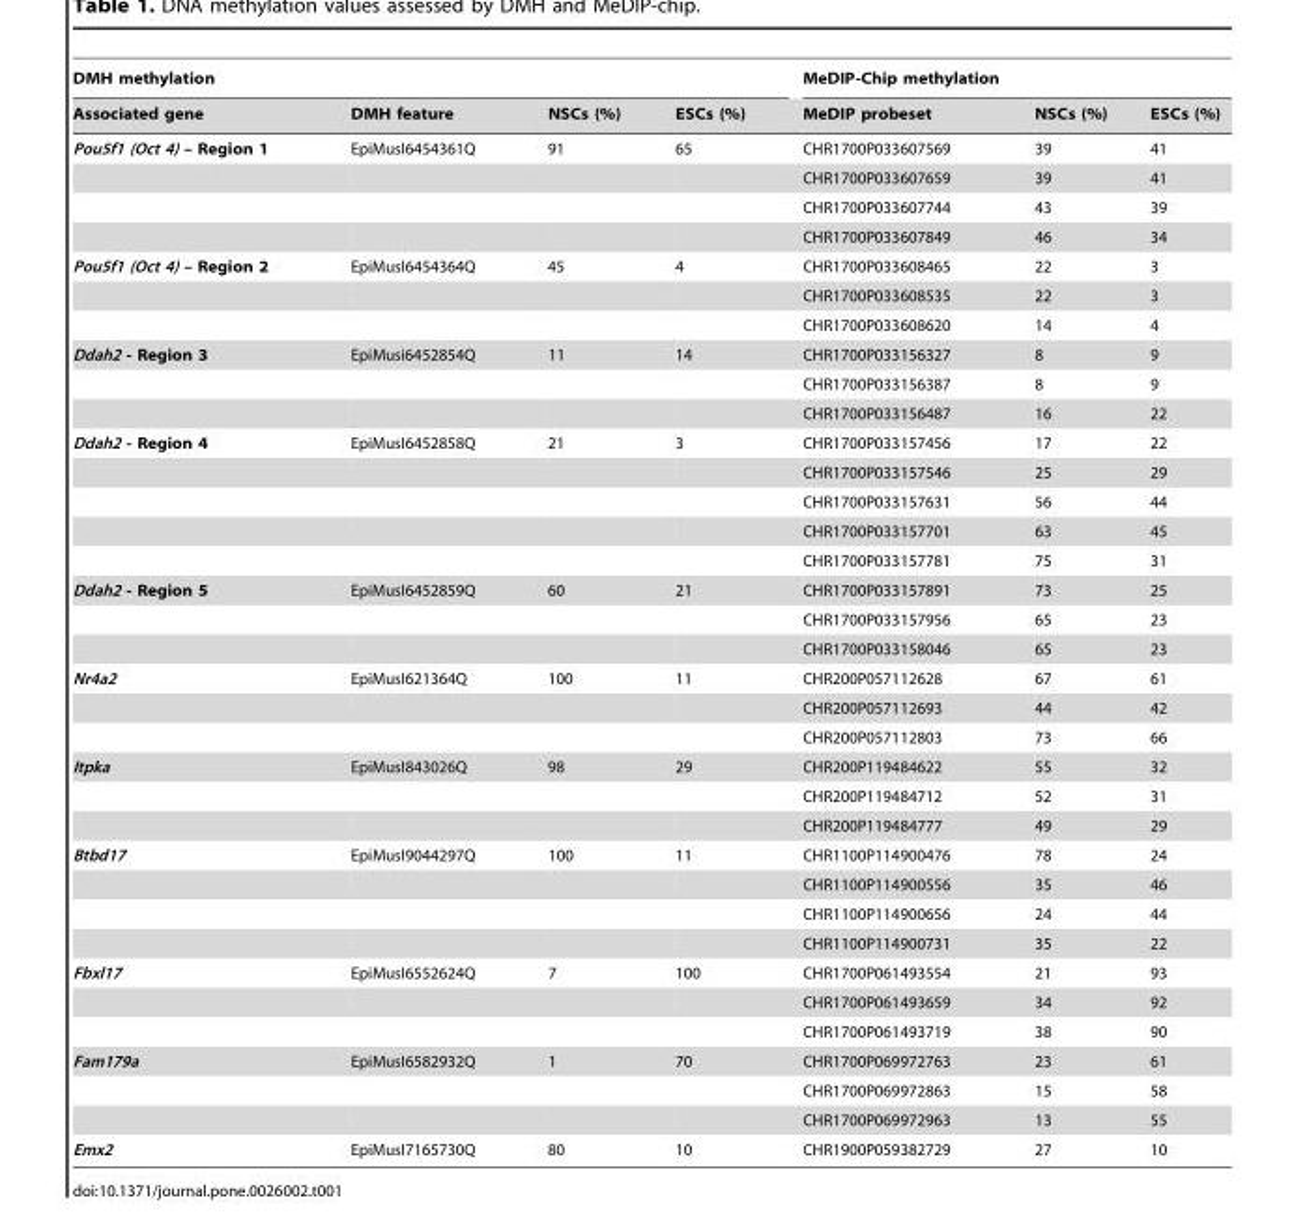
<table><thead><tr><td colspan="4">DMH methylation</td><td colspan="3">MeDIP-Chip methylation</td></tr><tr><td>Associated gene</td><td>DMH feature</td><td>NSCs (%)</td><td>ESCs (%)</td><td>MeDIP probeset</td><td>NSCs (%)</td><td>ESCs (%)</td></tr></thead><tbody><tr><td rowspan="4">Pou5f1 (Oct 4) – Region 1</td><td>EpiMusI6454361Q</td><td>91</td><td>65</td><td>CHR1700P033607569</td><td>39</td><td>41</td></tr><tr><td></td><td></td><td></td><td>CHR1700P033607659</td><td>39</td><td>41</td></tr><tr><td></td><td></td><td></td><td>CHR1700P033607744</td><td>43</td><td>39</td></tr><tr><td></td><td></td><td></td><td>CHR1700P033607849</td><td>46</td><td>34</td></tr><tr><td rowspan="3">Pou5f1 (Oct 4) – Region 2</td><td>EpiMusI6454364Q</td><td>45</td><td>4</td><td>CHR1700P033608465</td><td>22</td><td>3</td></tr><tr><td></td><td></td><td></td><td>CHR1700P033608535</td><td>22</td><td>3</td></tr><tr><td></td><td></td><td></td><td>CHR1700P033608620</td><td>14</td><td>4</td></tr><tr><td rowspan="3">Ddah2 - Region 3</td><td>EpiMusi6452854Q</td><td>11</td><td>14</td><td>CHR1700P033156327</td><td>8</td><td>9</td></tr><tr><td></td><td></td><td></td><td>CHR1700P033156387</td><td>8</td><td>9</td></tr><tr><td></td><td></td><td></td><td>CHR1700P033156487</td><td>16</td><td>22</td></tr><tr><td rowspan="5">Ddah2 - Region 4</td><td>EpiMusI6452858Q</td><td>21</td><td>3</td><td>CHR1700P033157456</td><td>17</td><td>22</td></tr><tr><td></td><td></td><td></td><td>CHR1700P033157546</td><td>25</td><td>29</td></tr><tr><td></td><td></td><td></td><td>CHR1700P033157631</td><td>56</td><td>44</td></tr><tr><td></td><td></td><td></td><td>CHR1700P033157701</td><td>63</td><td>45</td></tr><tr><td></td><td></td><td></td><td>CHR1700P033157781</td><td>75</td><td>31</td></tr><tr><td rowspan="3">Ddah2 - Region 5</td><td>EpiMusI6452859Q</td><td>60</td><td>21</td><td>CHR1700P033157891</td><td>73</td><td>25</td></tr><tr><td></td><td></td><td></td><td>CHR1700P033157956</td><td>65</td><td>23</td></tr><tr><td></td><td></td><td></td><td>CHR1700P033158046</td><td>65</td><td>23</td></tr><tr><td rowspan="3">Nr4a2</td><td>EpiMusI621364Q</td><td>100</td><td>11</td><td>CHR200P057112628</td><td>67</td><td>61</td></tr><tr><td></td><td></td><td></td><td>CHR200P057112693</td><td>44</td><td>42</td></tr><tr><td></td><td></td><td></td><td>CHR200P057112803</td><td>73</td><td>66</td></tr><tr><td rowspan="3">Itpka</td><td>EpiMusI843026Q</td><td>98</td><td>29</td><td>CHR200P119484622</td><td>55</td><td>32</td></tr><tr><td></td><td></td><td></td><td>CHR200P119484712</td><td>52</td><td>31</td></tr><tr><td></td><td></td><td></td><td>CHR200P119484777</td><td>49</td><td>29</td></tr><tr><td rowspan="4">Btbd17</td><td>EpiMusI9044297Q</td><td>100</td><td>11</td><td>CHR1100P114900476</td><td>78</td><td>24</td></tr><tr><td></td><td></td><td></td><td>CHR1100P114900556</td><td>35</td><td>46</td></tr><tr><td></td><td></td><td></td><td>CHR1100P114900656</td><td>24</td><td>44</td></tr><tr><td></td><td></td><td></td><td>CHR1100P114900731</td><td>35</td><td>22</td></tr><tr><td rowspan="3">Fbxl17</td><td>EpiMusI6552624Q</td><td>7</td><td>100</td><td>CHR1700P061493554</td><td>21</td><td>93</td></tr><tr><td></td><td></td><td></td><td>CHR1700P061493659</td><td>34</td><td>92</td></tr><tr><td></td><td></td><td></td><td>CHR1700P061493719</td><td>38</td><td>90</td></tr><tr><td rowspan="3">Fam179a</td><td>EpiMusI6582932Q</td><td>1</td><td>70</td><td>CHR1700P069972763</td><td>23</td><td>61</td></tr><tr><td></td><td></td><td></td><td>CHR1700P069972863</td><td>15</td><td>58</td></tr><tr><td></td><td></td><td></td><td>CHR1700P069972963</td><td>13</td><td>55</td></tr><tr><td>Emx2</td><td>EpiMusI7165730Q</td><td>80</td><td>10</td><td>CHR1900P059382729</td><td>27</td><td>10</td></tr></tbody></table>